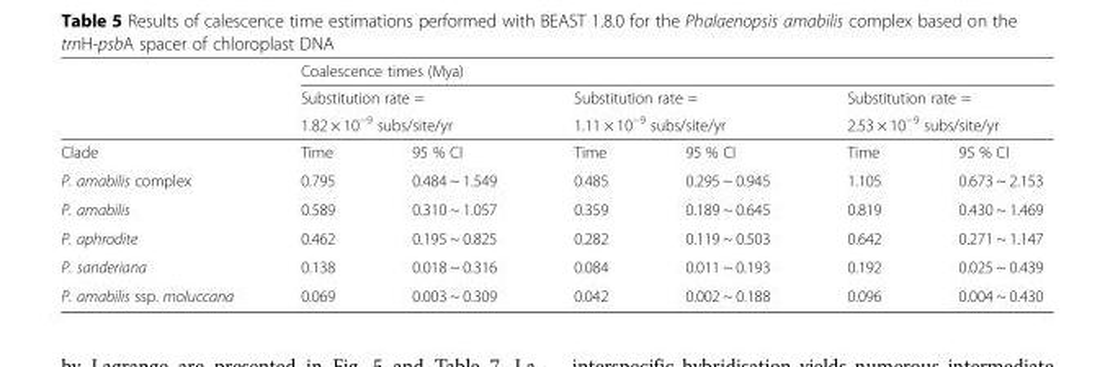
<table><thead><tr><td rowspan="4">Clade</td><td colspan="6">Coalescence times (Mya)</td></tr><tr><td rowspan="2" colspan="2">Substitution rate = 1.82 × 10<sup>−9</sup> subs/site/yr</td><td rowspan="2" colspan="2">Substitution rate = 1.11 × 10<sup>−9</sup> subs/site/yr</td><td rowspan="2" colspan="2">Substitution rate = 2.53 × 10<sup>−9</sup> subs/site/yr</td></tr><tr></tr><tr><td>Time</td><td>95 % CI</td><td>Time</td><td>95 % CI</td><td>Time</td><td>95 % CI</td></tr></thead><tbody><tr><td>P. amabilis complex</td><td>0.795</td><td>0.484 ~ 1.549</td><td>0.485</td><td>0.295 ~ 0.945</td><td>1.105</td><td>0.673 ~ 2.153</td></tr><tr><td>P. amabilis</td><td>0.589</td><td>0.310 ~ 1.057</td><td>0.359</td><td>0.189 ~ 0.645</td><td>0.819</td><td>0.430 ~ 1.469</td></tr><tr><td>P. aphrodite</td><td>0.462</td><td>0.195 ~ 0.825</td><td>0.282</td><td>0.119 ~ 0.503</td><td>0.642</td><td>0.271 ~ 1.147</td></tr><tr><td>P. sanderiana</td><td>0.138</td><td>0.018 ~ 0.316</td><td>0.084</td><td>0.011 ~ 0.193</td><td>0.192</td><td>0.025 ~ 0.439</td></tr><tr><td>P. amabilis ssp. moluccana</td><td>0.069</td><td>0.003 ~ 0.309</td><td>0.042</td><td>0.002 ~ 0.188</td><td>0.096</td><td>0.004 ~ 0.430</td></tr></tbody></table>